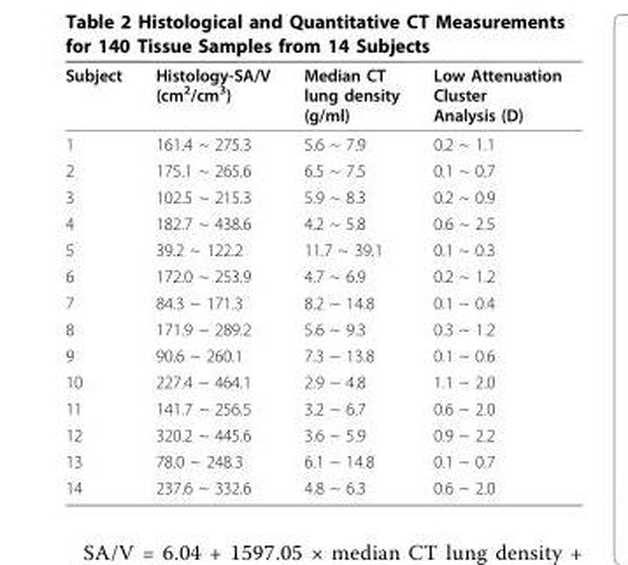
<table><thead><tr><td>Subject</td><td>Histology-SA/V (cm<sup>2</sup>/cm<sup>3</sup>)</td><td>Median CT lung density (g/ml)</td><td>Low Attenuation Cluster Analysis (D)</td></tr></thead><tbody><tr><td>1</td><td>161.4 ~ 275.3</td><td>5.6 ~ 7.9</td><td>0.2 ~ 1.1</td></tr><tr><td>2</td><td>175.1 ~ 265.6</td><td>6.5 ~ 7.5</td><td>0.1 ~ 0.7</td></tr><tr><td>3</td><td>102.5 ~ 215.3</td><td>5.9 ~ 8.3</td><td>0.2 ~ 0.9</td></tr><tr><td>4</td><td>182.7 ~ 438.6</td><td>4.2 ~ 5.8</td><td>0.6 ~ 2.5</td></tr><tr><td>5</td><td>39.2 ~ 122.2</td><td>11.7 ~ 39.1</td><td>0.1 ~ 0.3</td></tr><tr><td>6</td><td>172.0 ~ 253.9</td><td>4.7 ~ 6.9</td><td>0.2 ~ 1.2</td></tr><tr><td>7</td><td>84.3 ~ 171.3</td><td>8.2 ~ 14.8</td><td>0.1 ~ 0.4</td></tr><tr><td>8</td><td>171.9 ~ 289.2</td><td>5.6 ~ 9.3</td><td>0.3 ~ 1.2</td></tr><tr><td>9</td><td>90.6 ~ 260.1</td><td>7.3 ~ 13.8</td><td>0.1 ~ 0.6</td></tr><tr><td>10</td><td>227.4 ~ 464.1</td><td>2.9 ~ 4.8</td><td>1.1 ~ 2.0</td></tr><tr><td>11</td><td>141.7 ~ 256.5</td><td>3.2 ~ 6.7</td><td>0.6 ~ 2.0</td></tr><tr><td>12</td><td>320.2 ~ 445.6</td><td>3.6 ~ 5.9</td><td>0.9 ~ 2.2</td></tr><tr><td>13</td><td>78.0 ~ 248.3</td><td>6.1 ~ 14.8</td><td>0.1 ~ 0.7</td></tr><tr><td>14</td><td>237.6 ~ 332.6</td><td>4.8 ~ 6.3</td><td>0.6 ~ 2.0</td></tr></tbody></table>